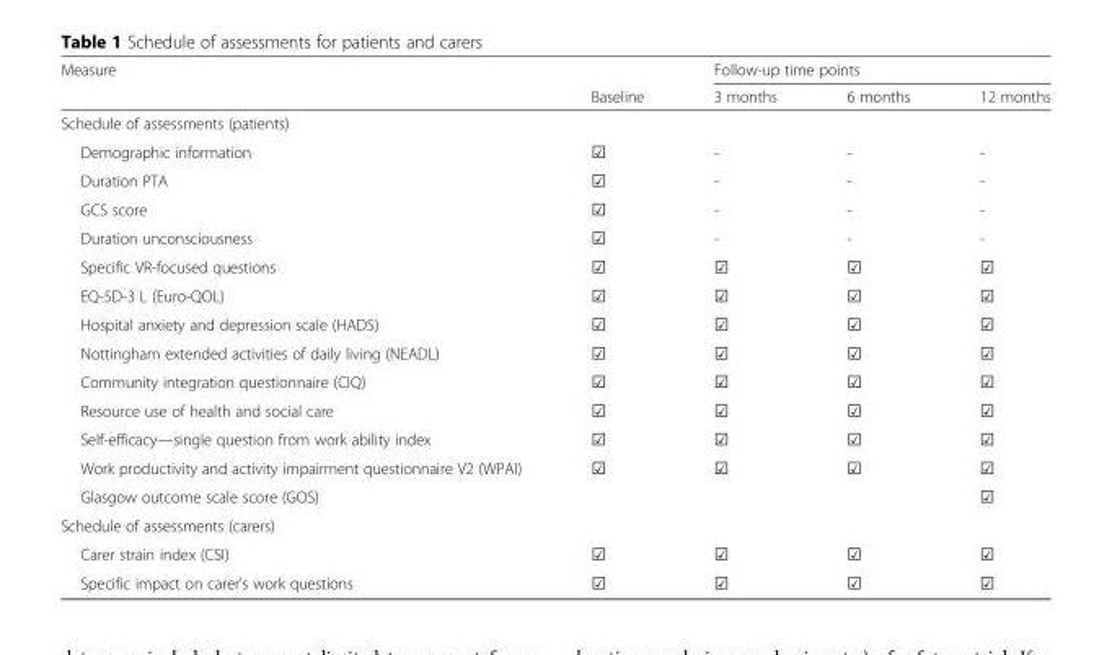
<table><thead><tr><td rowspan="2">Measure</td><td rowspan="2">Baseline</td><td colspan="3">Follow-up time points</td></tr><tr><td>3 months</td><td>6 months</td><td>12 months</td></tr></thead><tbody><tr><td colspan="5">Schedule of assessments (patients)</td></tr><tr><td>Demographic information</td><td>☑</td><td>-</td><td>-</td><td>-</td></tr><tr><td>Duration PTA</td><td>☑</td><td>-</td><td>-</td><td>-</td></tr><tr><td>GCS score</td><td>☑</td><td>-</td><td>-</td><td>-</td></tr><tr><td>Duration unconsciousness</td><td>☑</td><td>-</td><td>-</td><td>-</td></tr><tr><td>Specific VR-focused questions</td><td>☑</td><td>☑</td><td>☑</td><td>☑</td></tr><tr><td>EQ-5D-3 L (Euro-QOL)</td><td>☑</td><td>☑</td><td>☑</td><td>☑</td></tr><tr><td>Hospital anxiety and depression scale (HADS)</td><td>☑</td><td>☑</td><td>☑</td><td>☑</td></tr><tr><td>Nottingham extended activities of daily living (NEADL)</td><td>☑</td><td>☑</td><td>☑</td><td>☑</td></tr><tr><td>Community integration questionnaire (CIQ)</td><td>☑</td><td>☑</td><td>☑</td><td>☑</td></tr><tr><td>Resource use of health and social care</td><td>☑</td><td>☑</td><td>☑</td><td>☑</td></tr><tr><td>Self-efficacy—single question from work ability index</td><td>☑</td><td>☑</td><td>☑</td><td>☑</td></tr><tr><td>Work productivity and activity impairment questionnaire V2 (WPAI)</td><td>☑</td><td>☑</td><td>☑</td><td>☑</td></tr><tr><td>Glasgow outcome scale score (GOS)</td><td></td><td></td><td></td><td>☑</td></tr><tr><td colspan="5">Schedule of assessments (carers)</td></tr><tr><td>Carer strain index (CSI)</td><td>☑</td><td>☑</td><td>☑</td><td>☑</td></tr><tr><td>Specific impact on carer’s work questions</td><td>☑</td><td>☑</td><td>☑</td><td>☑</td></tr></tbody></table>